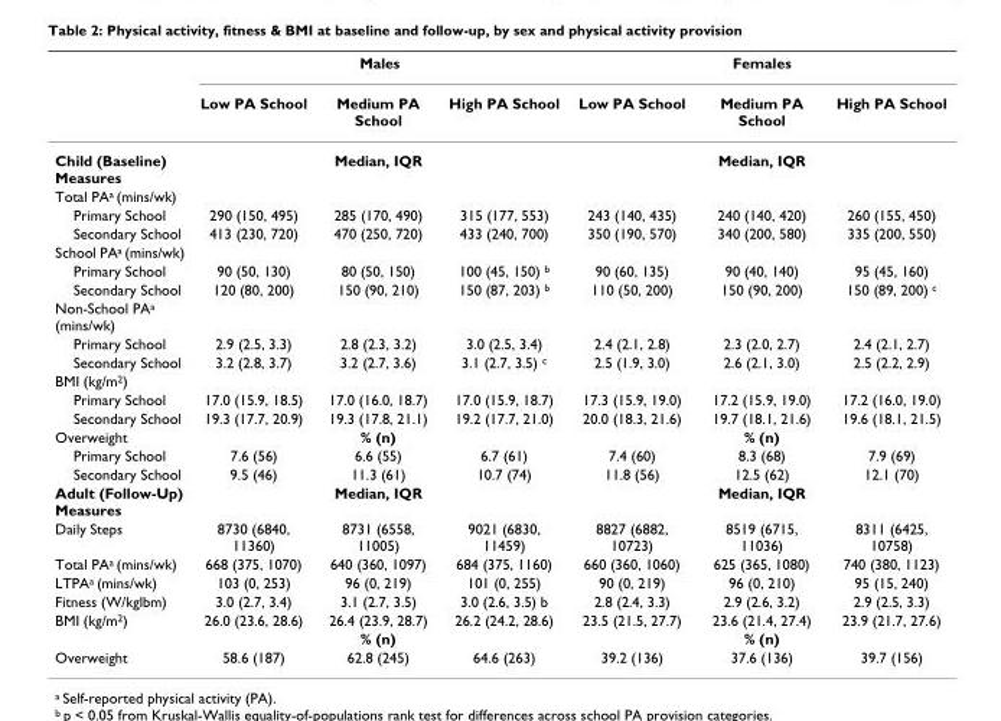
<table><thead><tr><td rowspan="2"></td><td colspan="3">Males</td><td colspan="3">Females</td></tr><tr><td>Low PA School</td><td>Medium PA School</td><td>High PA School</td><td>Low PA School</td><td>Medium PA School</td><td>High PA School</td></tr></thead><tbody><tr><td>Child (Baseline) Measures</td><td></td><td>Median, IQR</td><td></td><td></td><td>Median, IQR</td><td></td></tr><tr><td colspan="7">Total PA<sup>a</sup> (mins/wk)</td></tr><tr><td>Primary School</td><td>290 (150, 495)</td><td>285 (170, 490)</td><td>315 (177, 553)</td><td>243 (140, 435)</td><td>240 (140, 420)</td><td>260 (155, 450)</td></tr><tr><td>Secondary School</td><td>413 (230, 720)</td><td>470 (250, 720)</td><td>433 (240, 700)</td><td>350 (190, 570)</td><td>340 (200, 580)</td><td>335 (200, 550)</td></tr><tr><td colspan="7">School PA<sup>a</sup> (mins/wk)</td></tr><tr><td>Primary School</td><td>90 (50, 130)</td><td>80 (50, 150)</td><td>100 (45, 150) <sup>b</sup></td><td>90 (60, 135)</td><td>90 (40, 140)</td><td>95 (45, 160)</td></tr><tr><td>Secondary School</td><td>120 (80, 200)</td><td>150 (90, 210)</td><td>150 (87, 203) <sup>b</sup></td><td>110 (50, 200)</td><td>150 (90, 200)</td><td>150 (89, 200) <sup>c</sup></td></tr><tr><td colspan="7">Non-School PA<sup>a</sup> (mins/wk)</td></tr><tr><td>Primary School</td><td>2.9 (2.5, 3.3)</td><td>2.8 (2.3, 3.2)</td><td>3.0 (2.5, 3.4)</td><td>2.4 (2.1, 2.8)</td><td>2.3 (2.0, 2.7)</td><td>2.4 (2.1, 2.7)</td></tr><tr><td>Secondary School</td><td>3.2 (2.8, 3.7)</td><td>3.2 (2.7, 3.6)</td><td>3.1 (2.7, 3.5) <sup>c</sup></td><td>2.5 (1.9, 3.0)</td><td>2.6 (2.1, 3.0)</td><td>2.5 (2.2, 2.9)</td></tr><tr><td colspan="7">BMI (kg/m<sup>2</sup>)</td></tr><tr><td>Primary School</td><td>17.0 (15.9, 18.5)</td><td>17.0 (16.0, 18.7)</td><td>17.0 (15.9, 18.7)</td><td>17.3 (15.9, 19.0)</td><td>17.2 (15.9, 19.0)</td><td>17.2 (16.0, 19.0)</td></tr><tr><td>Secondary School</td><td>19.3 (17.7, 20.9)</td><td>19.3 (17.8, 21.1)</td><td>19.2 (17.7, 21.0)</td><td>20.0 (18.3, 21.6)</td><td>19.7 (18.1, 21.6)</td><td>19.6 (18.1, 21.5)</td></tr><tr><td>Overweight</td><td></td><td>% (n)</td><td></td><td></td><td>% (n)</td><td></td></tr><tr><td>Primary School</td><td>7.6 (56)</td><td>6.6 (55)</td><td>6.7 (61)</td><td>7.4 (60)</td><td>8.3 (68)</td><td>7.9 (69)</td></tr><tr><td>Secondary School</td><td>9.5 (46)</td><td>11.3 (61)</td><td>10.7 (74)</td><td>11.8 (56)</td><td>12.5 (62)</td><td>12.1 (70)</td></tr><tr><td>Adult (Follow-Up) Measures</td><td></td><td>Median, IQR</td><td></td><td></td><td>Median, IQR</td><td></td></tr><tr><td>Daily Steps</td><td>8730 (6840, 11360)</td><td>8731 (6558, 11005)</td><td>9021 (6830, 11459)</td><td>8827 (6882, 10723)</td><td>8519 (6715, 11036)</td><td>8311 (6425, 10758)</td></tr><tr><td>Total PA<sup>a</sup> (mins/wk)</td><td>668 (375, 1070)</td><td>640 (360, 1097)</td><td>684 (375, 1160)</td><td>660 (360, 1060)</td><td>625 (365, 1080)</td><td>740 (380, 1123)</td></tr><tr><td>LTPA<sup>a</sup> (mins/wk)</td><td>103 (0, 253)</td><td>96 (0, 219)</td><td>101 (0, 255)</td><td>90 (0, 219)</td><td>96 (0, 210)</td><td>95 (15, 240)</td></tr><tr><td>Fitness (W/kglbm)</td><td>3.0 (2.7, 3.4)</td><td>3.1 (2.7, 3.5)</td><td>3.0 (2.6, 3.5) b</td><td>2.8 (2.4, 3.3)</td><td>2.9 (2.6, 3.2)</td><td>2.9 (2.5, 3.3)</td></tr><tr><td rowspan="2">BMI (kg/m<sup>2</sup>)</td><td>26.0 (23.6, 28.6)</td><td>26.4 (23.9, 28.7)</td><td>26.2 (24.2, 28.6)</td><td>23.5 (21.5, 27.7)</td><td>23.6 (21.4, 27.4)</td><td>23.9 (21.7, 27.6)</td></tr><tr><td></td><td>% (n)</td><td></td><td></td><td>% (n)</td><td></td></tr><tr><td>Overweight</td><td>58.6 (187)</td><td>62.8 (245)</td><td>64.6 (263)</td><td>39.2 (136)</td><td>37.6 (136)</td><td>39.7 (156)</td></tr></tbody></table>